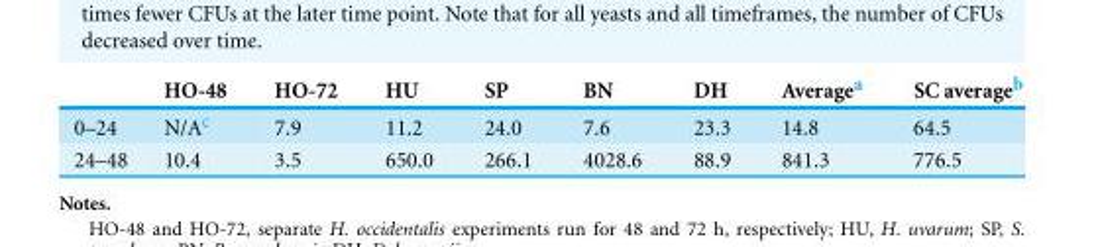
<table><thead><tr><td></td><td>HO-48</td><td>HO-72</td><td>HU</td><td>SP</td><td>BN</td><td>DH</td><td>Average<sup>a</sup></td><td>SC average<sup>b</sup></td></tr></thead><tbody><tr><td>0–24</td><td>N/A<sup>c</sup></td><td>7.9</td><td>11.2</td><td>24.0</td><td>7.6</td><td>23.3</td><td>14.8</td><td>64.5</td></tr><tr><td>24–48</td><td>10.4</td><td>3.5</td><td>650.0</td><td>266.1</td><td>4028.6</td><td>88.9</td><td>841.3</td><td>776.5</td></tr></tbody></table>